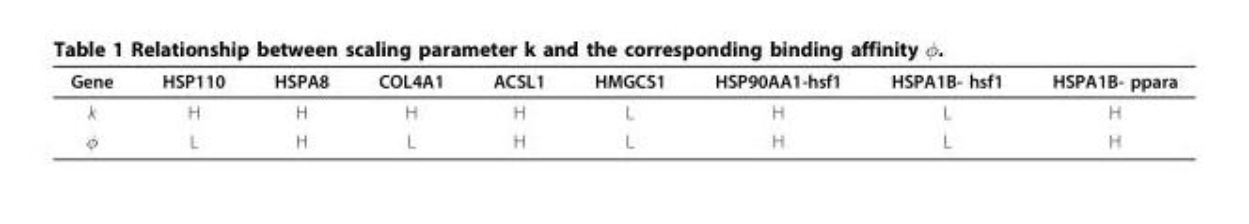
<table><thead><tr><td>Gene</td><td>HSP110</td><td>HSPA8</td><td>COL4A1</td><td>ACSL1</td><td>HMGCS1</td><td>HSP90AA1-hsf1</td><td>HSPA1B- hsf1</td><td>HSPA1B- ppara</td></tr></thead><tbody><tr><td>k</td><td>H</td><td>H</td><td>H</td><td>H</td><td>L</td><td>H</td><td>L</td><td>H</td></tr><tr><td>φ</td><td>L</td><td>H</td><td>L</td><td>H</td><td>L</td><td>H</td><td>L</td><td>H</td></tr></tbody></table>